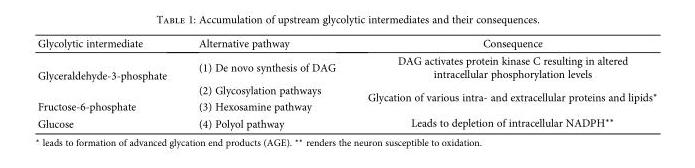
<table><thead><tr><td>Glycolytic intermediate</td><td>Alternative pathway</td><td>Consequence</td></tr></thead><tbody><tr><td rowspan="2">Glyceraldehyde-3-phosphate</td><td>(1) De novo synthesis of DAG</td><td>DAG activates protein kinase C resulting in altered intracellular phosphorylation levels</td></tr><tr><td>(2) Glycosylation pathways</td><td rowspan="2">Glycation of various intra- and extracellular proteins and lipids∗</td></tr><tr><td>Fructose-6-phosphate</td><td>(3) Hexosamine pathway</td></tr><tr><td>Glucose</td><td>(4) Polyol pathway</td><td>Leads to depletion of intracellular NADPH∗∗</td></tr></tbody></table>